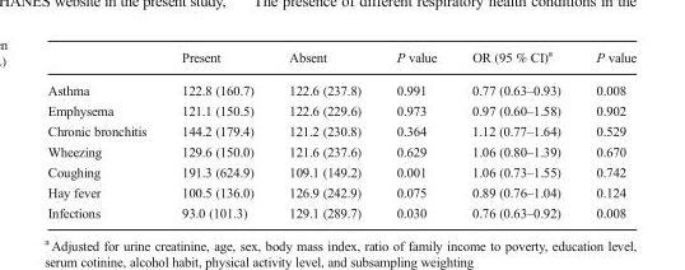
<table><thead><tr><td></td><td>Present</td><td>Absent</td><td>P value</td><td>OR (95 % CI)<sup>a</sup></td><td>P value</td></tr></thead><tbody><tr><td>Asthma</td><td>122.8 (160.7)</td><td>122.6 (237.8)</td><td>0.991</td><td>0.77 (0.63–0.93)</td><td>0.008</td></tr><tr><td>Emphysema</td><td>121.1 (150.5)</td><td>122.6 (229.6)</td><td>0.973</td><td>0.97 (0.60–1.58)</td><td>0.902</td></tr><tr><td>Chronic bronchitis</td><td>144.2 (179.4)</td><td>121.2 (230.8)</td><td>0.364</td><td>1.12 (0.77–1.64)</td><td>0.529</td></tr><tr><td>Wheezing</td><td>129.6 (150.0)</td><td>121.6 (237.6)</td><td>0.629</td><td>1.06 (0.80–1.39)</td><td>0.670</td></tr><tr><td>Coughing</td><td>191.3 (624.9)</td><td>109.1 (149.2)</td><td>0.001</td><td>1.06 (0.73–1.55)</td><td>0.742</td></tr><tr><td>Hay fever</td><td>100.5 (136.0)</td><td>126.9 (242.9)</td><td>0.075</td><td>0.89 (0.76–1.04)</td><td>0.124</td></tr><tr><td>Infections</td><td>93.0 (101.3)</td><td>129.1 (289.7)</td><td>0.030</td><td>0.76 (0.63–0.92)</td><td>0.008</td></tr></tbody></table>